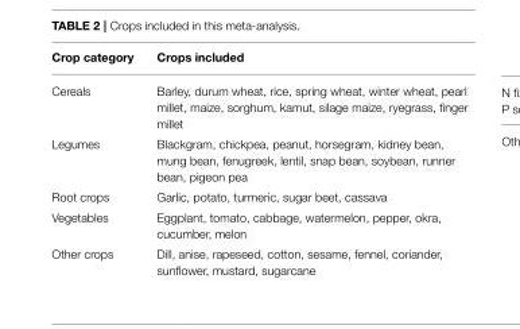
<table><thead><tr><td>Crop category</td><td>Crops included</td></tr></thead><tbody><tr><td>Cereals</td><td>Barley, durum wheat, rice, spring wheat, winter wheat, pearl millet, maize, sorghum, kamut, silage maize, ryegrass, finger millet</td></tr><tr><td>Legumes</td><td>Blackgram, chickpea, peanut, horsegram, kidney bean, mung bean, fenugreek, lentil, snap bean, soybean, runner bean, pigeon pea</td></tr><tr><td>Root crops</td><td>Garlic, potato, turmeric, sugar beet, cassava</td></tr><tr><td>Vegetables</td><td>Eggplant, tomato, cabbage, watermelon, pepper, okra, cucumber, melon</td></tr><tr><td>Other crops</td><td>Dill, anise, rapeseed, cotton, sesame, fennel, coriander, sunflower, mustard, sugarcane</td></tr></tbody></table>